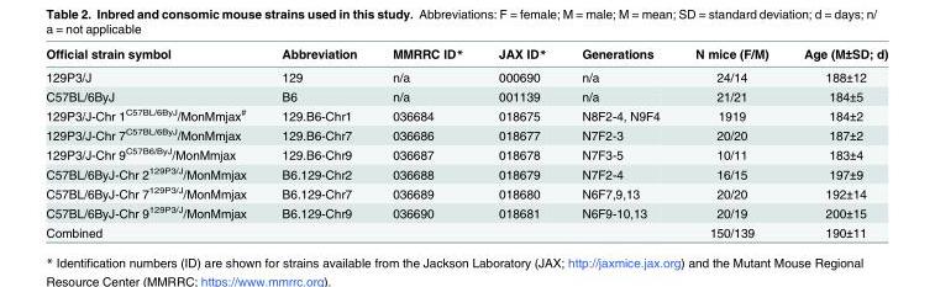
<table><thead><tr><td>Official strain symbol</td><td>Abbreviation</td><td>MMRRC ID*</td><td>JAX ID*</td><td>Generations</td><td>N mice (F/M)</td><td>Age (M±SD; d)</td></tr></thead><tbody><tr><td>129P3/J</td><td>129</td><td>n/a</td><td>000690</td><td>n/a</td><td>24/14</td><td>188±12</td></tr><tr><td>C57BL/6ByJ</td><td>B6</td><td>n/a</td><td>001139</td><td>n/a</td><td>21/21</td><td>184±5</td></tr><tr><td>129P3/J-Chr 1<sup>C57BL/6ByJ</sup>/MonMmjax<sup>#</sup></td><td>129.B6-Chr1</td><td>036684</td><td>018675</td><td>N8F2-4, N9F4</td><td>1919</td><td>184±2</td></tr><tr><td>129P3/J-Chr 7<sup>C57BL/6ByJ</sup>/MonMmjax</td><td>129.B6-Chr7</td><td>036686</td><td>018677</td><td>N7F2-3</td><td>20/20</td><td>187±2</td></tr><tr><td>129P3/J-Chr 9<sup>C57B6/ByJ</sup>/MonMmjax</td><td>129.B6-Chr9</td><td>036687</td><td>018678</td><td>N7F3-5</td><td>10/11</td><td>183±4</td></tr><tr><td>C57BL/6ByJ-Chr 2<sup>129P3/J</sup>/MonMmjax</td><td>B6.129-Chr2</td><td>036688</td><td>018679</td><td>N7F2-4</td><td>16/15</td><td>197±9</td></tr><tr><td>C57BL/6ByJ-Chr 7<sup>129P3/J</sup>/MonMmjax</td><td>B6.129-Chr7</td><td>036689</td><td>018680</td><td>N6F7,9,13</td><td>20/20</td><td>192±14</td></tr><tr><td>C57BL/6ByJ-Chr 9<sup>129P3/J</sup>/MonMmjax</td><td>B6.129-Chr9</td><td>036690</td><td>018681</td><td>N6F9-10,13</td><td>20/19</td><td>200±15</td></tr><tr><td>Combined</td><td></td><td></td><td></td><td></td><td>150/139</td><td>190±11</td></tr></tbody></table>